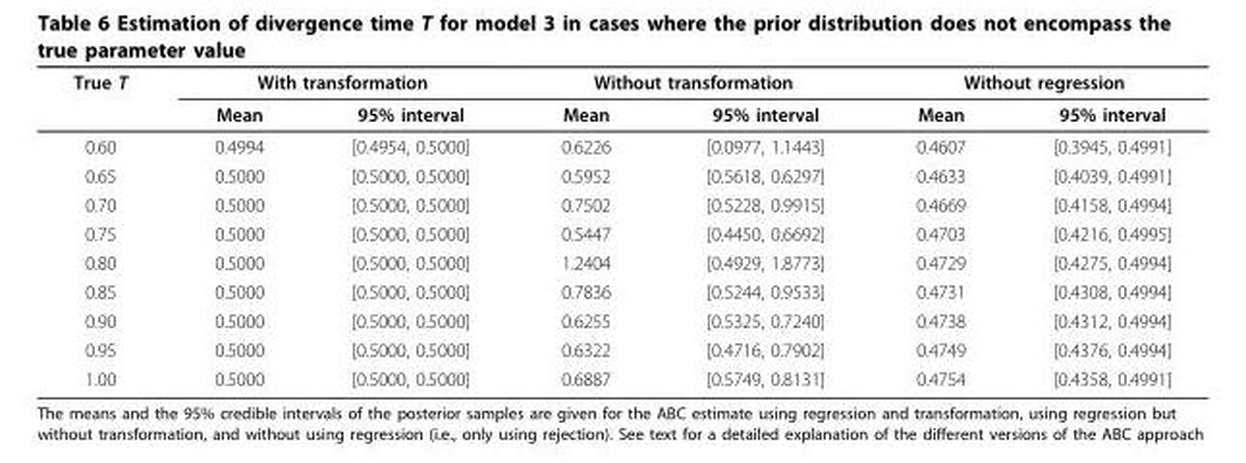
<table><thead><tr><td rowspan="2">True T</td><td colspan="2">With transformation</td><td colspan="2">Without transformation</td><td colspan="2">Without regression</td></tr><tr><td>Mean</td><td>95% interval</td><td>Mean</td><td>95% interval</td><td>Mean</td><td>95% interval</td></tr></thead><tbody><tr><td>0.60</td><td>0.4994</td><td>[0.4954, 0.5000]</td><td>0.6226</td><td>[0.0977, 1.1443]</td><td>0.4607</td><td>[0.3945, 0.4991]</td></tr><tr><td>0.65</td><td>0.5000</td><td>[0.5000, 0.5000]</td><td>0.5952</td><td>[0.5618, 0.6297]</td><td>0.4633</td><td>[0.4039, 0.4991]</td></tr><tr><td>0.70</td><td>0.5000</td><td>[0.5000, 0.5000]</td><td>0.7502</td><td>[0.5228, 0.9915]</td><td>0.4669</td><td>[0.4158, 0.4994]</td></tr><tr><td>0.75</td><td>0.5000</td><td>[0.5000, 0.5000]</td><td>0.5447</td><td>[0.4450, 0.6692]</td><td>0.4703</td><td>[0.4216, 0.4995]</td></tr><tr><td>0.80</td><td>0.5000</td><td>[0.5000, 0.5000]</td><td>1.2404</td><td>[0.4929, 1.8773]</td><td>0.4729</td><td>[0.4275, 0.4994]</td></tr><tr><td>0.85</td><td>0.5000</td><td>[0.5000, 0.5000]</td><td>0.7836</td><td>[0.5244, 0.9533]</td><td>0.4731</td><td>[0.4308, 0.4994]</td></tr><tr><td>0.90</td><td>0.5000</td><td>[0.5000, 0.5000]</td><td>0.6255</td><td>[0.5325, 0.7240]</td><td>0.4738</td><td>[0.4312, 0.4994]</td></tr><tr><td>0.95</td><td>0.5000</td><td>[0.5000, 0.5000]</td><td>0.6322</td><td>[0.4716, 0.7902]</td><td>0.4749</td><td>[0.4376, 0.4994]</td></tr><tr><td>1.00</td><td>0.5000</td><td>[0.5000, 0.5000]</td><td>0.6887</td><td>[0.5749, 0.8131]</td><td>0.4754</td><td>[0.4358, 0.4991]</td></tr></tbody></table>